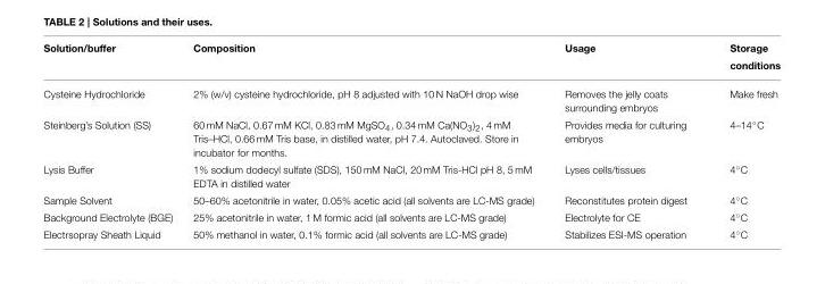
<table><thead><tr><td>Solution/buffer</td><td>Composition</td><td>Usage</td><td>Storage conditions</td></tr></thead><tbody><tr><td>Cysteine Hydrochloride</td><td>2% (w/v) cysteine hydrochloride, pH 8 adjusted with 10 N NaOH drop wise</td><td>Removes the jelly coats surrounding embryos</td><td>Make fresh</td></tr><tr><td>Steinberg’s Solution (SS)</td><td>60 mM NaCl, 0.67 mM KCl, 0.83 mM MgSO<sub>4</sub>, 0.34 mM Ca(NO<sub>3</sub>)<sub>2</sub>, 4 mM Tris–HCl, 0.66 mM Tris base, in distilled water, pH 7.4. Autoclaved. Store in incubator for months.</td><td>Provides media for culturing embryos</td><td>4–14◦C</td></tr><tr><td>Lysis Buffer</td><td>1% sodium dodecyl sulfate (SDS), 150 mM NaCl, 20 mM Tris-HCl pH 8, 5 mM EDTA in distilled water</td><td>Lyses cells/tissues</td><td>4◦C</td></tr><tr><td>Sample Solvent</td><td>50–60% acetonitrile in water, 0.05% acetic acid (all solvents are LC-MS grade)</td><td>Reconstitutes protein digest</td><td>4◦C</td></tr><tr><td>Background Electrolyte (BGE)</td><td>25% acetonitrile in water, 1 M formic acid (all solvents are LC-MS grade)</td><td>Electrolyte for CE</td><td>4◦C</td></tr><tr><td>Electrsopray Sheath Liquid</td><td>50% methanol in water, 0.1% formic acid (all solvents are LC-MS grade)</td><td>Stabilizes ESI-MS operation</td><td>4◦C</td></tr></tbody></table>